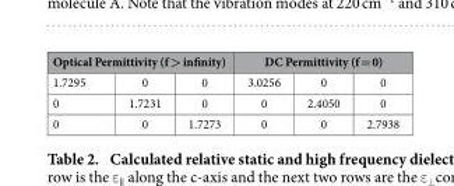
<table><thead><tr><td colspan="3">Optical Permittivity (f &gt; infinity)</td><td colspan="3">DC Permittivity (f = 0)</td></tr><tr><td>1.7295</td><td>0</td><td>0</td><td>3.0256</td><td>0</td><td>0</td></tr></thead><tbody><tr><td>0</td><td>1.7231</td><td>0</td><td>0</td><td>2.4050</td><td>0</td></tr><tr><td>0</td><td>0</td><td>1.7273</td><td>0</td><td>0</td><td>2.7938</td></tr></tbody></table>